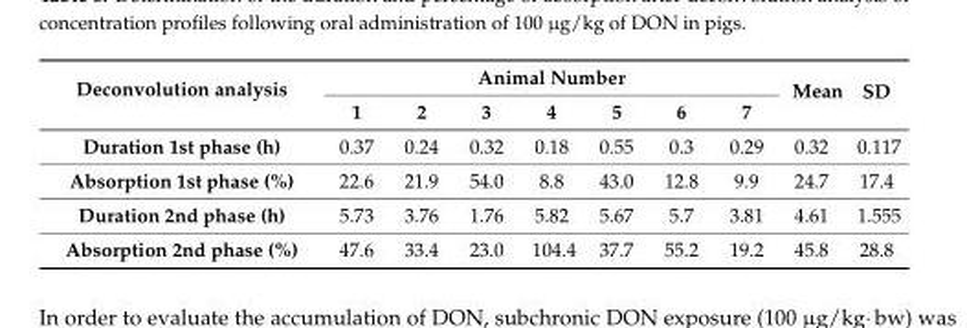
<table><thead><tr><td rowspan="2">Deconvolution analysis</td><td colspan="7">Animal Number</td><td rowspan="2">Mean</td><td rowspan="2">SD</td></tr><tr><td>1</td><td>2</td><td>3</td><td>4</td><td>5</td><td>6</td><td>7</td></tr></thead><tbody><tr><td>Duration 1st phase (h)</td><td>0.37</td><td>0.24</td><td>0.32</td><td>0.18</td><td>0.55</td><td>0.3</td><td>0.29</td><td>0.32</td><td>0.117</td></tr><tr><td>Absorption 1st phase (%)</td><td>22.6</td><td>21.9</td><td>54.0</td><td>8.8</td><td>43.0</td><td>12.8</td><td>9.9</td><td>24.7</td><td>17.4</td></tr><tr><td>Duration 2nd phase (h)</td><td>5.73</td><td>3.76</td><td>1.76</td><td>5.82</td><td>5.67</td><td>5.7</td><td>3.81</td><td>4.61</td><td>1.555</td></tr><tr><td>Absorption 2nd phase (%)</td><td>47.6</td><td>33.4</td><td>23.0</td><td>104.4</td><td>37.7</td><td>55.2</td><td>19.2</td><td>45.8</td><td>28.8</td></tr></tbody></table>